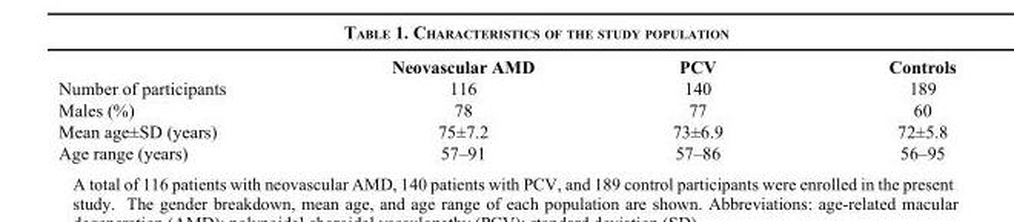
<table><thead><tr><td></td><td>Neovascular AMD</td><td>PCV</td><td>Controls</td></tr></thead><tbody><tr><td>Number of participants</td><td>116</td><td>140</td><td>189</td></tr><tr><td>Males (%)</td><td>78</td><td>77</td><td>60</td></tr><tr><td>Mean age±SD (years)</td><td>75±7.2</td><td>73±6.9</td><td>72±5.8</td></tr><tr><td>Age range (years)</td><td>57–91</td><td>57–86</td><td>56–95</td></tr></tbody></table>